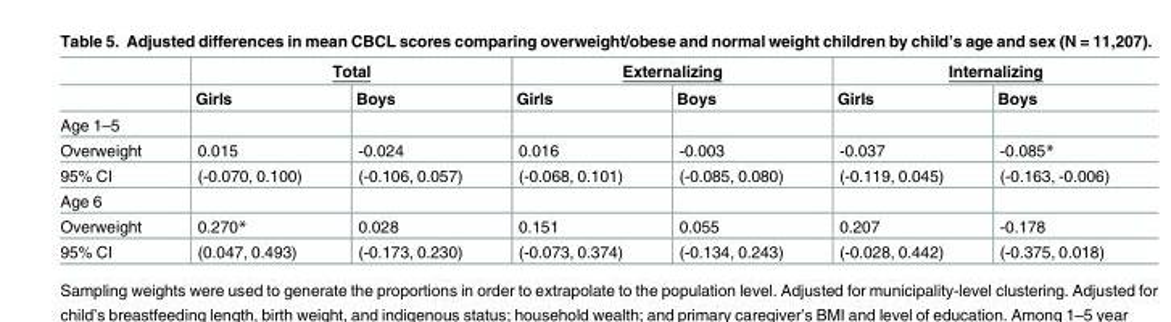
<table><thead><tr><td rowspan="2"></td><td colspan="2">Total</td><td colspan="2">Externalizing</td><td colspan="2">Internalizing</td></tr><tr><td>Girls</td><td>Boys</td><td>Girls</td><td>Boys</td><td>Girls</td><td>Boys</td></tr></thead><tbody><tr><td colspan="7">Age 1–5</td></tr><tr><td>Overweight</td><td>0.015</td><td>-0.024</td><td>0.016</td><td>-0.003</td><td>-0.037</td><td>-0.085*</td></tr><tr><td>95% CI</td><td>(-0.070, 0.100)</td><td>(-0.106, 0.057)</td><td>(-0.068, 0.101)</td><td>(-0.085, 0.080)</td><td>(-0.119, 0.045)</td><td>(-0.163, -0.006)</td></tr><tr><td colspan="7">Age 6</td></tr><tr><td>Overweight</td><td>0.270*</td><td>0.028</td><td>0.151</td><td>0.055</td><td>0.207</td><td>-0.178</td></tr><tr><td>95% CI</td><td>(0.047, 0.493)</td><td>(-0.173, 0.230)</td><td>(-0.073, 0.374)</td><td>(-0.134, 0.243)</td><td>(-0.028, 0.442)</td><td>(-0.375, 0.018)</td></tr></tbody></table>